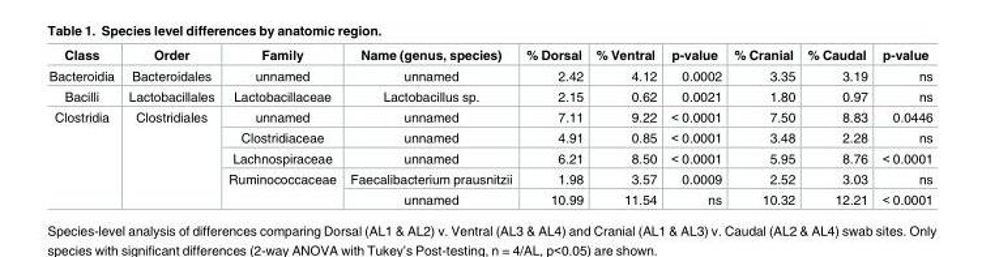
<table><thead><tr><td>Class</td><td>Order</td><td>Family</td><td>Name (genus, species)</td><td>% Dorsal</td><td>% Ventral</td><td>p-value</td><td>% Cranial</td><td>% Caudal</td><td>p-value</td></tr></thead><tbody><tr><td>Bacteroidia</td><td>Bacteroidales</td><td>unnamed</td><td>unnamed</td><td>2.42</td><td>4.12</td><td>0.0002</td><td>3.35</td><td>3.19</td><td>ns</td></tr><tr><td>Bacilli</td><td>Lactobacillales</td><td>Lactobacillaceae</td><td>Lactobacillus sp.</td><td>2.15</td><td>0.62</td><td>0.0021</td><td>1.80</td><td>0.97</td><td>ns</td></tr><tr><td rowspan="5">Clostridia</td><td rowspan="5">Clostridiales</td><td>unnamed</td><td>unnamed</td><td>7.11</td><td>9.22</td><td>&lt; 0.0001</td><td>7.50</td><td>8.83</td><td>0.0446</td></tr><tr><td>Clostridiaceae</td><td>unnamed</td><td>4.91</td><td>0.85</td><td>&lt; 0.0001</td><td>3.48</td><td>2.28</td><td>ns</td></tr><tr><td>Lachnospiraceae</td><td>unnamed</td><td>6.21</td><td>8.50</td><td>&lt; 0.0001</td><td>5.95</td><td>8.76</td><td>&lt; 0.0001</td></tr><tr><td rowspan="2">Ruminococcaceae</td><td>Faecalibacterium prausnitzii</td><td>1.98</td><td>3.57</td><td>0.0009</td><td>2.52</td><td>3.03</td><td>ns</td></tr><tr><td>unnamed</td><td>10.99</td><td>11.54</td><td>ns</td><td>10.32</td><td>12.21</td><td>&lt; 0.0001</td></tr></tbody></table>